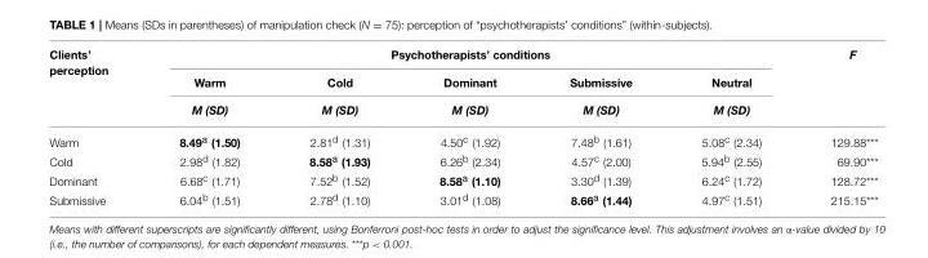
<table><thead><tr><td rowspan="3">Clients’ perception</td><td colspan="5">Psychotherapists’ conditions</td><td rowspan="3">F</td></tr><tr><td rowspan="2">Warm M (SD)</td><td rowspan="2">Cold M (SD)</td><td rowspan="2">Dominant M (SD)</td><td rowspan="2">Submissive M (SD)</td><td rowspan="2">Neutral M (SD)</td></tr><tr></tr></thead><tbody><tr><td>Warm</td><td>8.49<sup>a</sup> (1.50)</td><td>2.81<sup>d</sup> (1.31)</td><td>4.50<sup>c</sup> (1.92)</td><td>7.48<sup>b</sup> (1.61)</td><td>5.08<sup>c</sup> (2.34)</td><td>129.88***</td></tr><tr><td>Cold</td><td>2.98<sup>d</sup> (1.82)</td><td>8.58<sup>a</sup> (1.93)</td><td>6.26<sup>b</sup> (2.34)</td><td>4.57<sup>c</sup> (2.00)</td><td>5.94<sup>b</sup> (2.55)</td><td>69.90***</td></tr><tr><td>Dominant</td><td>6.68<sup>c</sup> (1.71)</td><td>7.52<sup>b</sup> (1.52)</td><td>8.58<sup>a</sup> (1.10)</td><td>3.30<sup>d</sup> (1.39)</td><td>6.24<sup>c</sup> (1.72)</td><td>128.72***</td></tr><tr><td>Submissive</td><td>6.04<sup>b</sup> (1.51)</td><td>2.78<sup>d</sup> (1.10)</td><td>3.01<sup>d</sup> (1.08)</td><td>8.66<sup>a</sup> (1.44)</td><td>4.97<sup>c</sup> (1.51)</td><td>215.15***</td></tr></tbody></table>